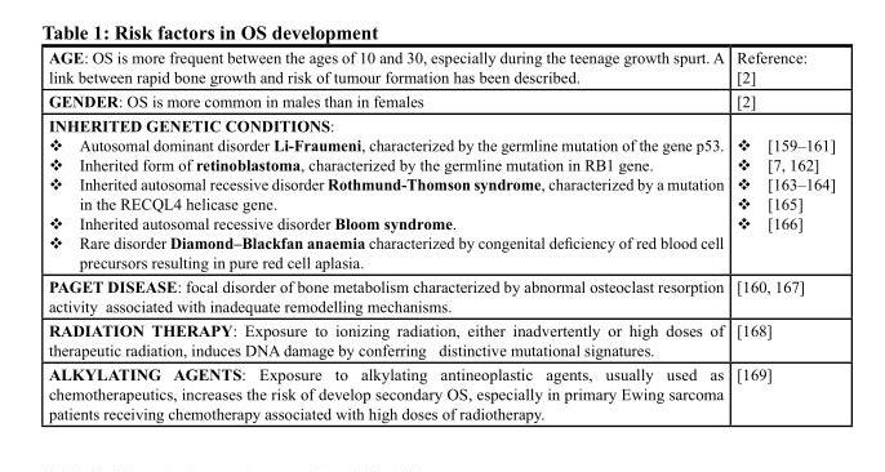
<table><tbody><tr><td>AGE: OS is more frequent between the ages of 10 and 30, especially during the teenage growth spurt. A link between rapid bone growth and risk of tumour formation has been described.</td><td>Reference: [2]</td></tr><tr><td>GENDER: OS is more common in males than in females</td><td>[2]</td></tr><tr><td>INHERITED GENETIC CONDITIONS: ❖ Autosomal dominant disorder Li-Fraumeni, characterized by the germline mutation of the gene p53. ❖ Inherited form of retinoblastoma, characterized by the germline mutation in RB1 gene. ❖ Inherited autosomal recessive disorder Rothmund-Thomson syndrome, characterized by a mutation in the RECQL4 helicase gene. ❖ Inherited autosomal recessive disorder Bloom syndrome. ❖ Rare disorder Diamond–Blackfan anaemia characterized by congenital deficiency of red blood cell precursors resulting in pure red cell aplasia.</td><td>❖ [159–161] ❖ [7, 162] ❖ [163–164] ❖ [165] ❖ [166]</td></tr><tr><td>PAGET DISEASE: focal disorder of bone metabolism characterized by abnormal osteoclast resorption activity associated with inadequate remodelling mechanisms.</td><td>[160, 167]</td></tr><tr><td>RADIATION THERAPY: Exposure to ionizing radiation, either inadvertently or high doses of therapeutic radiation, induces DNA damage by conferring distinctive mutational signatures.</td><td>[168]</td></tr><tr><td>ALKYLATING AGENTS: Exposure to alkylating antineoplastic agents, usually used as chemotherapeutics, increases the risk of develop secondary OS, especially in primary Ewing sarcoma patients receiving chemotherapy associated with high doses of radiotherapy.</td><td>[169]</td></tr></tbody></table>